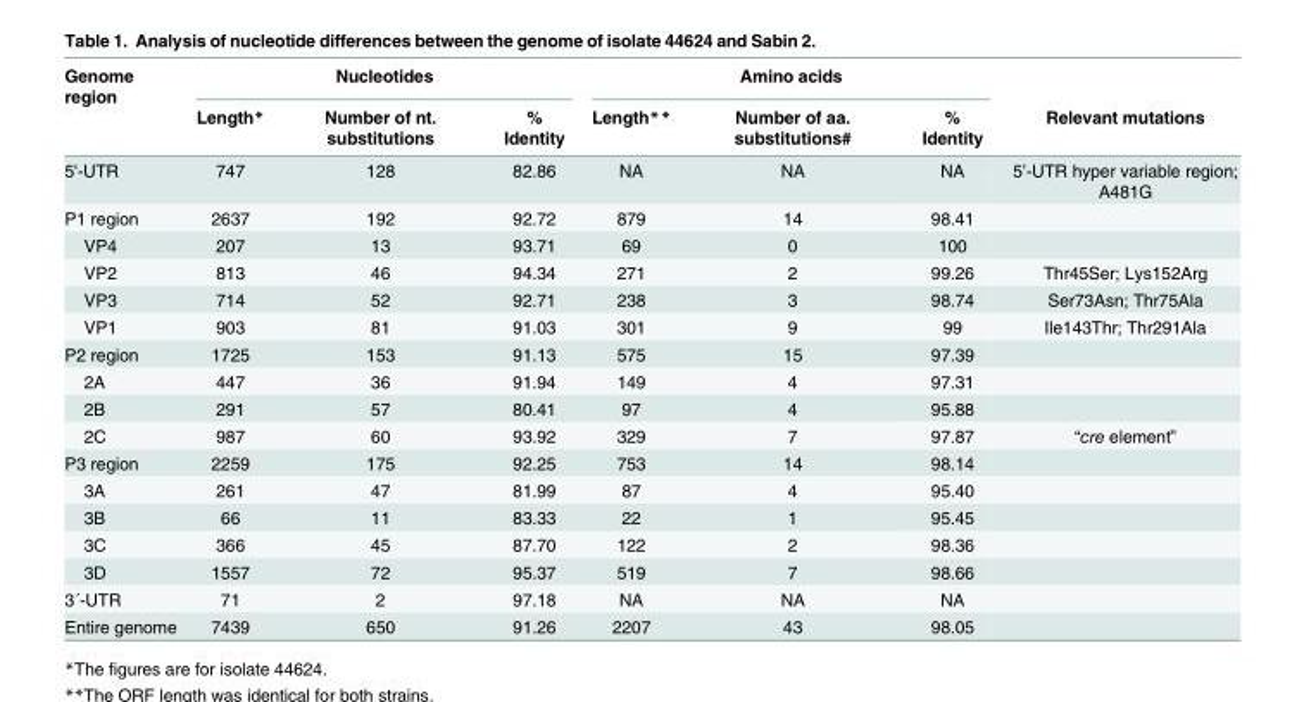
<table><thead><tr><td rowspan="2">Genome region</td><td colspan="3">Nucleotides</td><td colspan="3">Amino acids</td><td rowspan="2">Relevant mutations</td></tr><tr><td>Length*</td><td>Number of nt. substitutions</td><td>% Identity</td><td>Length**</td><td>Number of aa. substitutions#</td><td>% Identity</td></tr></thead><tbody><tr><td>5&#x27;-UTR</td><td>747</td><td>128</td><td>82.86</td><td>NA</td><td>NA</td><td>NA</td><td>5’-UTR hyper variable region; A481G</td></tr><tr><td>P1 region</td><td>2637</td><td>192</td><td>92.72</td><td>879</td><td>14</td><td>98.41</td><td></td></tr><tr><td>VP4</td><td>207</td><td>13</td><td>93.71</td><td>69</td><td>0</td><td>100</td><td></td></tr><tr><td>VP2</td><td>813</td><td>46</td><td>94.34</td><td>271</td><td>2</td><td>99.26</td><td>Thr45Ser; Lys152Arg</td></tr><tr><td>VP3</td><td>714</td><td>52</td><td>92.71</td><td>238</td><td>3</td><td>98.74</td><td>Ser73Asn; Thr75Ala</td></tr><tr><td>VP1</td><td>903</td><td>81</td><td>91.03</td><td>301</td><td>9</td><td>99</td><td>Ile143Thr; Thr291Ala</td></tr><tr><td>P2 region</td><td>1725</td><td>153</td><td>91.13</td><td>575</td><td>15</td><td>97.39</td><td></td></tr><tr><td>2A</td><td>447</td><td>36</td><td>91.94</td><td>149</td><td>4</td><td>97.31</td><td></td></tr><tr><td>2B</td><td>291</td><td>57</td><td>80.41</td><td>97</td><td>4</td><td>95.88</td><td></td></tr><tr><td>2C</td><td>987</td><td>60</td><td>93.92</td><td>329</td><td>7</td><td>97.87</td><td>“cre element”</td></tr><tr><td>P3 region</td><td>2259</td><td>175</td><td>92.25</td><td>753</td><td>14</td><td>98.14</td><td></td></tr><tr><td>3A</td><td>261</td><td>47</td><td>81.99</td><td>87</td><td>4</td><td>95.40</td><td></td></tr><tr><td>3B</td><td>66</td><td>11</td><td>83.33</td><td>22</td><td>1</td><td>95.45</td><td></td></tr><tr><td>3C</td><td>366</td><td>45</td><td>87.70</td><td>122</td><td>2</td><td>98.36</td><td></td></tr><tr><td>3D</td><td>1557</td><td>72</td><td>95.37</td><td>519</td><td>7</td><td>98.66</td><td></td></tr><tr><td>3´-UTR</td><td>71</td><td>2</td><td>97.18</td><td>NA</td><td>NA</td><td>NA</td><td></td></tr><tr><td>Entire genome</td><td>7439</td><td>650</td><td>91.26</td><td>2207</td><td>43</td><td>98.05</td><td></td></tr></tbody></table>